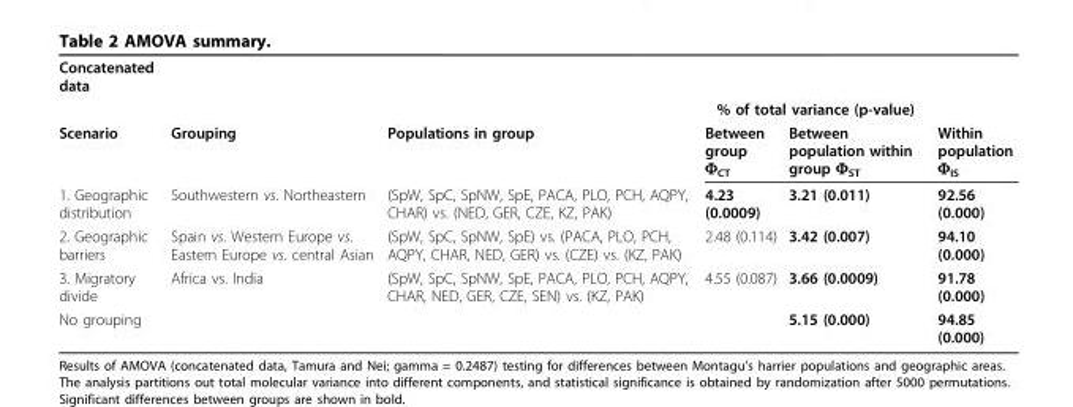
<table><tbody><tr><td colspan="6">Concatenated data</td></tr><tr><td></td><td></td><td></td><td colspan="2">% of total variance (p-value)</td><td></td></tr><tr><td>Scenario</td><td>Grouping</td><td>Populations in group</td><td>Between group Φ<sub>CT</sub></td><td>Between population within group Φ<sub>ST</sub></td><td>Within population Φ<sub>IS</sub></td></tr><tr><td>1. Geographic distribution</td><td>Southwestern vs. Northeastern</td><td>(SpW, SpC, SpNW, SpE, PACA, PLO, PCH, AQPY, CHAR) vs. (NED, GER, CZE, KZ, PAK)</td><td>4.23 (0.0009)</td><td>3.21 (0.011)</td><td>92.56 (0.000)</td></tr><tr><td>2. Geographic barriers</td><td>Spain vs. Western Europe vs. Eastern Europe vs. central Asian</td><td>(SpW, SpC, SpNW, SpE) vs. (PACA, PLO, PCH, AQPY, CHAR, NED, GER) vs. (CZE) vs. (KZ, PAK)</td><td>2.48 (0.114)</td><td>3.42 (0.007)</td><td>94.10 (0.000)</td></tr><tr><td>3. Migratory divide</td><td>Africa vs. India</td><td>(SpW, SpC, SpNW, SpE, PACA, PLO, PCH, AQPY, CHAR, NED, GER, CZE, SEN) vs. (KZ, PAK)</td><td>4.55 (0.087)</td><td>3.66 (0.0009)</td><td>91.78 (0.000)</td></tr><tr><td>No grouping</td><td></td><td></td><td></td><td>5.15 (0.000)</td><td>94.85 (0.000)</td></tr></tbody></table>